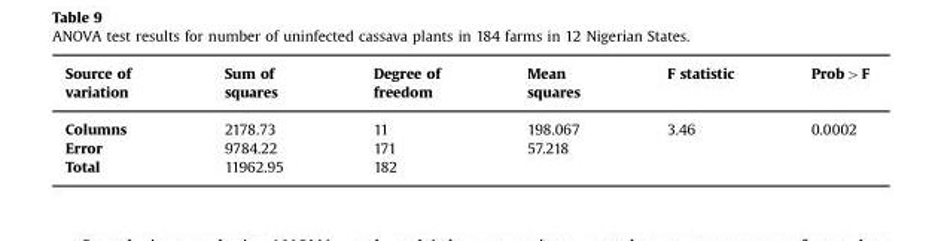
<table><thead><tr><td>Source of variation</td><td>Sum of squares</td><td>Degree of freedom</td><td>Mean squares</td><td>F statistic</td><td>Prob&gt;F</td></tr></thead><tbody><tr><td>Columns</td><td>2178.73</td><td>11</td><td>198.067</td><td>3.46</td><td>0.0002</td></tr><tr><td>Error</td><td>9784.22</td><td>171</td><td>57.218</td><td></td><td></td></tr><tr><td>Total</td><td>11962.95</td><td>182</td><td></td><td></td><td></td></tr></tbody></table>